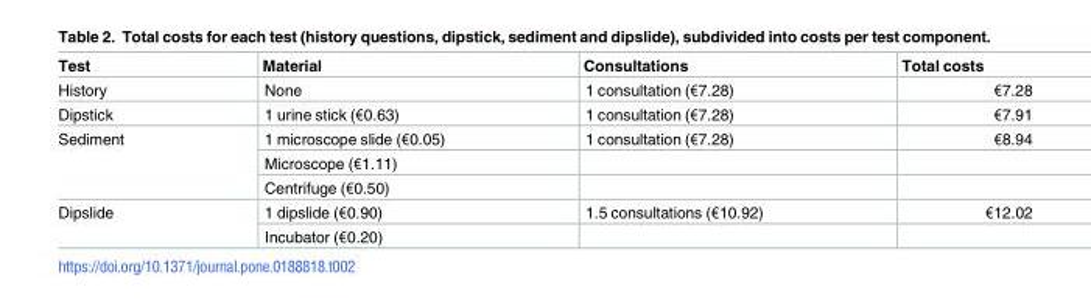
<table><thead><tr><td>Test</td><td>Material</td><td>Consultations</td><td>Total costs</td></tr></thead><tbody><tr><td>History</td><td>None</td><td>1 consultation (€7.28)</td><td>€7.28</td></tr><tr><td>Dipstick</td><td>1 urine stick (€0.63)</td><td>1 consultation (€7.28)</td><td>€7.91</td></tr><tr><td rowspan="3">Sediment</td><td>1 microscope slide (€0.05)</td><td>1 consultation (€7.28)</td><td>€8.94</td></tr><tr><td>Microscope (€1.11)</td><td></td><td></td></tr><tr><td>Centrifuge (€0.50)</td><td></td><td></td></tr><tr><td rowspan="2">Dipslide</td><td>1 dipslide (€0.90)</td><td>1.5 consultations (€10.92)</td><td>€12.02</td></tr><tr><td>Incubator (€0.20)</td><td></td><td></td></tr></tbody></table>